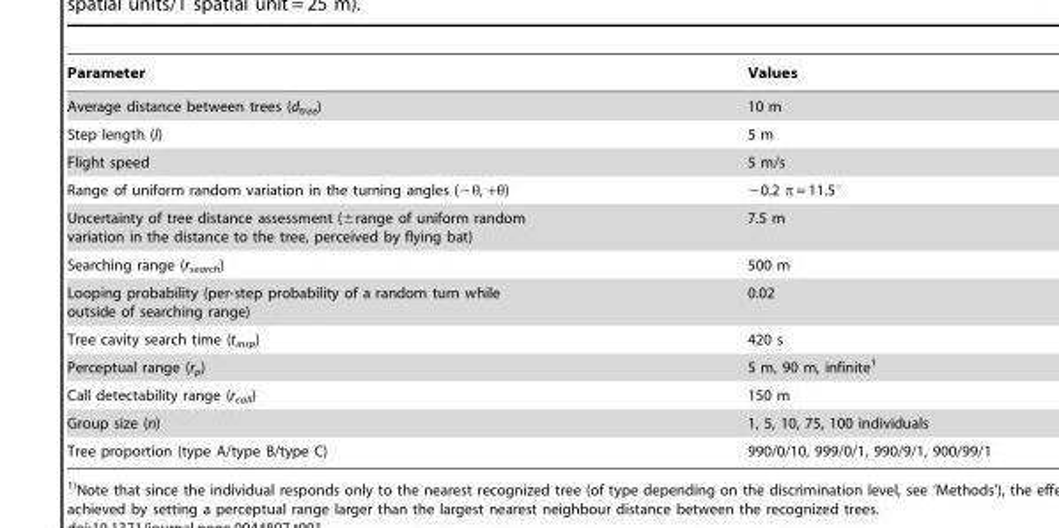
<table><thead><tr><td>Parameter</td><td>Values</td></tr></thead><tbody><tr><td>Average distance between trees (d<sub>tree</sub>)</td><td>10 m</td></tr><tr><td>Step length (l)</td><td>5 m</td></tr><tr><td>Flight speed</td><td>5 m/s</td></tr><tr><td>Range of uniform random variation in the turning angles (−θ, +θ)</td><td>−0.2 π = 11.5°</td></tr><tr><td>Uncertainty of tree distance assessment (±range of uniform random variation in the distance to the tree, perceived by flying bat)</td><td>7.5 m</td></tr><tr><td>Searching range (r<sub>search</sub>)</td><td>500 m</td></tr><tr><td>Looping probability (per-step probability of a random turn while outside of searching range)</td><td>0.02</td></tr><tr><td>Tree cavity search time (t<sub>insp</sub>)</td><td>420 s</td></tr><tr><td>Perceptual range (r<sub>p</sub>)</td><td>5 m, 90 m, infinite<sup>1</sup></td></tr><tr><td>Call detectability range (r<sub>call</sub>)</td><td>150 m</td></tr><tr><td>Group size (n)</td><td>1, 5, 10, 75, 100 individuals</td></tr><tr><td>Tree proportion (type A/type B/type C)</td><td>990/0/10, 999/0/1, 990/9/1, 900/99/1</td></tr></tbody></table>